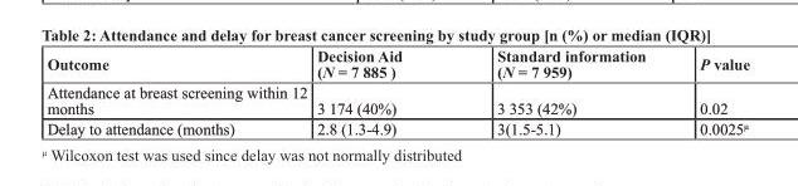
<table><thead><tr><td>Outcome</td><td>Decision Aid (N = 7 885 )</td><td>Standard information (N = 7 959)</td><td>P value</td></tr></thead><tbody><tr><td>Attendance at breast screening within 12 months</td><td>3 174 (40%)</td><td>3 353 (42%)</td><td>0.02</td></tr><tr><td>Delay to attendance (months)</td><td>2.8 (1.3-4.9)</td><td>3(1.5-5.1)</td><td>0.0025<sup>µ</sup></td></tr></tbody></table>